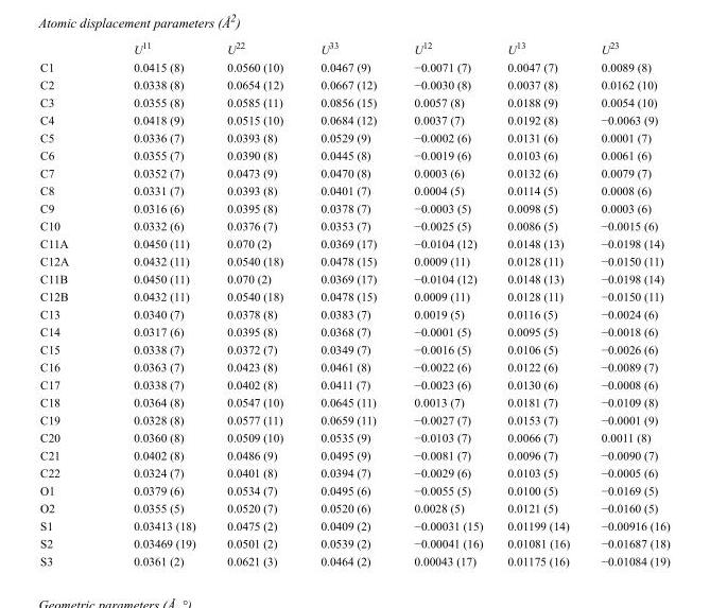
<table><thead><tr><td></td><td>U<sup>11</sup></td><td>U<sup>22</sup></td><td>U<sup>33</sup></td><td>U<sup>12</sup></td><td>U<sup>13</sup></td><td>U<sup>23</sup></td></tr></thead><tbody><tr><td>C1</td><td>0.0415 (8)</td><td>0.0560 (10)</td><td>0.0467 (9)</td><td>−0.0071 (7)</td><td>0.0047 (7)</td><td>0.0089 (8)</td></tr><tr><td>C2</td><td>0.0338 (8)</td><td>0.0654 (12)</td><td>0.0667 (12)</td><td>−0.0030 (8)</td><td>0.0037 (8)</td><td>0.0162 (10)</td></tr><tr><td>C3</td><td>0.0355 (8)</td><td>0.0585 (11)</td><td>0.0856 (15)</td><td>0.0057 (8)</td><td>0.0188 (9)</td><td>0.0054 (10)</td></tr><tr><td>C4</td><td>0.0418 (9)</td><td>0.0515 (10)</td><td>0.0684 (12)</td><td>0.0037 (7)</td><td>0.0192 (8)</td><td>−0.0063 (9)</td></tr><tr><td>C5</td><td>0.0336 (7)</td><td>0.0393 (8)</td><td>0.0529 (9)</td><td>−0.0002 (6)</td><td>0.0131 (6)</td><td>0.0001 (7)</td></tr><tr><td>C6</td><td>0.0355 (7)</td><td>0.0390 (8)</td><td>0.0445 (8)</td><td>−0.0019 (6)</td><td>0.0103 (6)</td><td>0.0061 (6)</td></tr><tr><td>C7</td><td>0.0352 (7)</td><td>0.0473 (9)</td><td>0.0470 (8)</td><td>0.0003 (6)</td><td>0.0132 (6)</td><td>0.0079 (7)</td></tr><tr><td>C8</td><td>0.0331 (7)</td><td>0.0393 (8)</td><td>0.0401 (7)</td><td>0.0004 (5)</td><td>0.0114 (5)</td><td>0.0008 (6)</td></tr><tr><td>C9</td><td>0.0316 (6)</td><td>0.0395 (8)</td><td>0.0378 (7)</td><td>−0.0003 (5)</td><td>0.0098 (5)</td><td>0.0003 (6)</td></tr><tr><td>C10</td><td>0.0332 (6)</td><td>0.0376 (7)</td><td>0.0353 (7)</td><td>−0.0025 (5)</td><td>0.0086 (5)</td><td>−0.0015 (6)</td></tr><tr><td>C11A</td><td>0.0450 (11)</td><td>0.070 (2)</td><td>0.0369 (17)</td><td>−0.0104 (12)</td><td>0.0148 (13)</td><td>−0.0198 (14)</td></tr><tr><td>C12A</td><td>0.0432 (11)</td><td>0.0540 (18)</td><td>0.0478 (15)</td><td>0.0009 (11)</td><td>0.0128 (11)</td><td>−0.0150 (11)</td></tr><tr><td>C11B</td><td>0.0450 (11)</td><td>0.070 (2)</td><td>0.0369 (17)</td><td>−0.0104 (12)</td><td>0.0148 (13)</td><td>−0.0198 (14)</td></tr><tr><td>C12B</td><td>0.0432 (11)</td><td>0.0540 (18)</td><td>0.0478 (15)</td><td>0.0009 (11)</td><td>0.0128 (11)</td><td>−0.0150 (11)</td></tr><tr><td>C13</td><td>0.0340 (7)</td><td>0.0378 (8)</td><td>0.0383 (7)</td><td>0.0019 (5)</td><td>0.0116 (5)</td><td>−0.0024 (6)</td></tr><tr><td>C14</td><td>0.0317 (6)</td><td>0.0395 (8)</td><td>0.0368 (7)</td><td>−0.0001 (5)</td><td>0.0095 (5)</td><td>−0.0018 (6)</td></tr><tr><td>C15</td><td>0.0338 (7)</td><td>0.0372 (7)</td><td>0.0349 (7)</td><td>−0.0016 (5)</td><td>0.0106 (5)</td><td>−0.0026 (6)</td></tr><tr><td>C16</td><td>0.0363 (7)</td><td>0.0423 (8)</td><td>0.0461 (8)</td><td>−0.0022 (6)</td><td>0.0122 (6)</td><td>−0.0089 (7)</td></tr><tr><td>C17</td><td>0.0338 (7)</td><td>0.0402 (8)</td><td>0.0411 (7)</td><td>−0.0023 (6)</td><td>0.0130 (6)</td><td>−0.0008 (6)</td></tr><tr><td>C18</td><td>0.0364 (8)</td><td>0.0547 (10)</td><td>0.0645 (11)</td><td>0.0013 (7)</td><td>0.0181 (7)</td><td>−0.0109 (8)</td></tr><tr><td>C19</td><td>0.0328 (8)</td><td>0.0577 (11)</td><td>0.0659 (11)</td><td>−0.0027 (7)</td><td>0.0153 (7)</td><td>−0.0001 (9)</td></tr><tr><td>C20</td><td>0.0360 (8)</td><td>0.0509 (10)</td><td>0.0535 (9)</td><td>−0.0103 (7)</td><td>0.0066 (7)</td><td>0.0011 (8)</td></tr><tr><td>C21</td><td>0.0402 (8)</td><td>0.0486 (9)</td><td>0.0495 (9)</td><td>−0.0081 (7)</td><td>0.0096 (7)</td><td>−0.0090 (7)</td></tr><tr><td>C22</td><td>0.0324 (7)</td><td>0.0401 (8)</td><td>0.0394 (7)</td><td>−0.0029 (6)</td><td>0.0103 (5)</td><td>−0.0005 (6)</td></tr><tr><td>O1</td><td>0.0379 (6)</td><td>0.0534 (7)</td><td>0.0495 (6)</td><td>−0.0055 (5)</td><td>0.0100 (5)</td><td>−0.0169 (5)</td></tr><tr><td>O2</td><td>0.0355 (5)</td><td>0.0520 (7)</td><td>0.0520 (6)</td><td>0.0028 (5)</td><td>0.0121 (5)</td><td>−0.0160 (5)</td></tr><tr><td>S1</td><td>0.03413 (18)</td><td>0.0475 (2)</td><td>0.0409 (2)</td><td>−0.00031 (15)</td><td>0.01199 (14)</td><td>−0.00916 (16)</td></tr><tr><td>S2</td><td>0.03469 (19)</td><td>0.0501 (2)</td><td>0.0539 (2)</td><td>−0.00041 (16)</td><td>0.01081 (16)</td><td>−0.01687 (18)</td></tr><tr><td>S3</td><td>0.0361 (2)</td><td>0.0621 (3)</td><td>0.0464 (2)</td><td>0.00043 (17)</td><td>0.01175 (16)</td><td>−0.01084 (19)</td></tr></tbody></table>